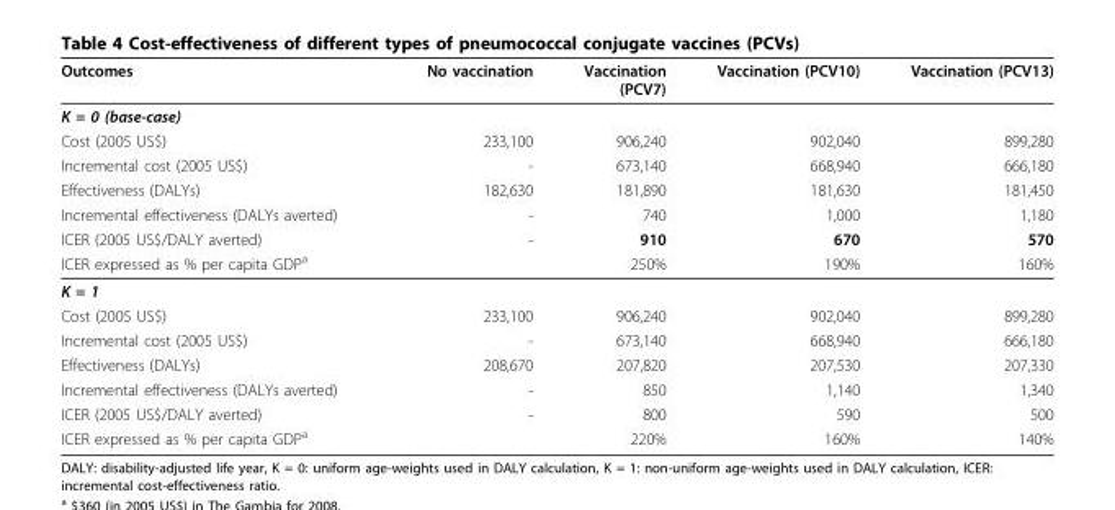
<table><thead><tr><td>Outcomes</td><td>No vaccination</td><td>Vaccination (PCV7)</td><td>Vaccination (PCV10)</td><td>Vaccination (PCV13)</td></tr></thead><tbody><tr><td colspan="5">K = 0 (base-case)</td></tr><tr><td>Cost (2005 US$)</td><td>233,100</td><td>906,240</td><td>902,040</td><td>899,280</td></tr><tr><td>Incremental cost (2005 US$)</td><td>-</td><td>673,140</td><td>668,940</td><td>666,180</td></tr><tr><td>Effectiveness (DALYs)</td><td>182,630</td><td>181,890</td><td>181,630</td><td>181,450</td></tr><tr><td>Incremental effectiveness (DALYs averted)</td><td>-</td><td>740</td><td>1,000</td><td>1,180</td></tr><tr><td>ICER (2005 US$/DALY averted)</td><td>-</td><td>910</td><td>670</td><td>570</td></tr><tr><td>ICER expressed as % per capita GDP<sup>a</sup></td><td></td><td>250%</td><td>190%</td><td>160%</td></tr><tr><td colspan="5">K = 1</td></tr><tr><td>Cost (2005 US$)</td><td>233,100</td><td>906,240</td><td>902,040</td><td>899,280</td></tr><tr><td>Incremental cost (2005 US$)</td><td>-</td><td>673,140</td><td>668,940</td><td>666,180</td></tr><tr><td>Effectiveness (DALYs)</td><td>208,670</td><td>207,820</td><td>207,530</td><td>207,330</td></tr><tr><td>Incremental effectiveness (DALYs averted)</td><td>-</td><td>850</td><td>1,140</td><td>1,340</td></tr><tr><td>ICER (2005 US$/DALY averted)</td><td>-</td><td>800</td><td>590</td><td>500</td></tr><tr><td>ICER expressed as % per capita GDP<sup>a</sup></td><td></td><td>220%</td><td>160%</td><td>140%</td></tr></tbody></table>